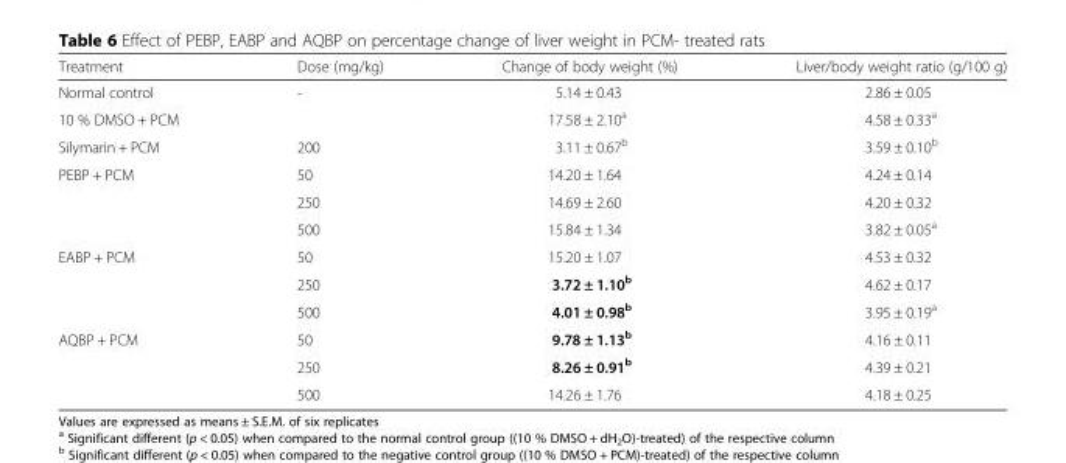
<table><thead><tr><td>Treatment</td><td>Dose (mg/kg)</td><td>Change of body weight (%)</td><td>Liver/body weight ratio (g/100 g)</td></tr></thead><tbody><tr><td>Normal control</td><td>-</td><td>5.14 ± 0.43</td><td>2.86 ± 0.05</td></tr><tr><td>10 % DMSO + PCM</td><td></td><td>17.58 ± 2.10<sup>a</sup></td><td>4.58 ± 0.33<sup>a</sup></td></tr><tr><td>Silymarin + PCM</td><td>200</td><td>3.11 ± 0.67<sup>b</sup></td><td>3.59 ± 0.10<sup>b</sup></td></tr><tr><td rowspan="3">PEBP + PCM</td><td>50</td><td>14.20 ± 1.64</td><td>4.24 ± 0.14</td></tr><tr><td>250</td><td>14.69 ± 2.60</td><td>4.20 ± 0.32</td></tr><tr><td>500</td><td>15.84 ± 1.34</td><td>3.82 ± 0.05<sup>a</sup></td></tr><tr><td rowspan="3">EABP + PCM</td><td>50</td><td>15.20 ± 1.07</td><td>4.53 ± 0.32</td></tr><tr><td>250</td><td>3.72 ± 1.10<sup>b</sup></td><td>4.62 ± 0.17</td></tr><tr><td>500</td><td>4.01 ± 0.98<sup>b</sup></td><td>3.95 ± 0.19<sup>a</sup></td></tr><tr><td rowspan="3">AQBP + PCM</td><td>50</td><td>9.78 ± 1.13<sup>b</sup></td><td>4.16 ± 0.11</td></tr><tr><td>250</td><td>8.26 ± 0.91<sup>b</sup></td><td>4.39 ± 0.21</td></tr><tr><td>500</td><td>14.26 ± 1.76</td><td>4.18 ± 0.25</td></tr></tbody></table>